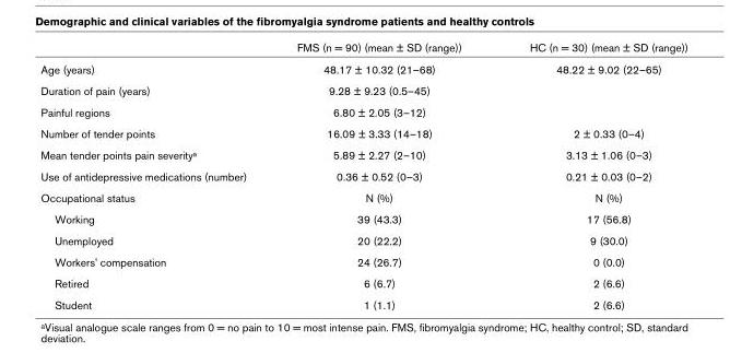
<table><thead><tr><td></td><td>FMS (n = 90) (mean ± SD (range))</td><td>HC (n = 30) (mean ± SD (range))</td></tr></thead><tbody><tr><td>Age (years)</td><td>48.17 ± 10.32 (21–68)</td><td>48.22 ± 9.02 (22–65)</td></tr><tr><td>Duration of pain (years)</td><td>9.28 ± 9.23 (0.5–45)</td><td></td></tr><tr><td>Painful regions</td><td>6.80 ± 2.05 (3–12)</td><td></td></tr><tr><td>Number of tender points</td><td>16.09 ± 3.33 (14–18)</td><td>2 ± 0.33 (0–4)</td></tr><tr><td>Mean tender points pain severitya</td><td>5.89 ± 2.27 (2–10)</td><td>3.13 ± 1.06 (0–3)</td></tr><tr><td>Use of antidepressive medications (number)</td><td>0.36 ± 0.52 (0–3)</td><td>0.21 ± 0.03 (0–2)</td></tr><tr><td>Occupational status</td><td>N (%)</td><td>N (%)</td></tr><tr><td>Working</td><td>39 (43.3)</td><td>17 (56.8)</td></tr><tr><td>Unemployed</td><td>20 (22.2)</td><td>9 (30.0)</td></tr><tr><td>Workers&#x27; compensation</td><td>24 (26.7)</td><td>0 (0.0)</td></tr><tr><td>Retired</td><td>6 (6.7)</td><td>2 (6.6)</td></tr><tr><td>Student</td><td>1 (1.1)</td><td>2 (6.6)</td></tr></tbody></table>